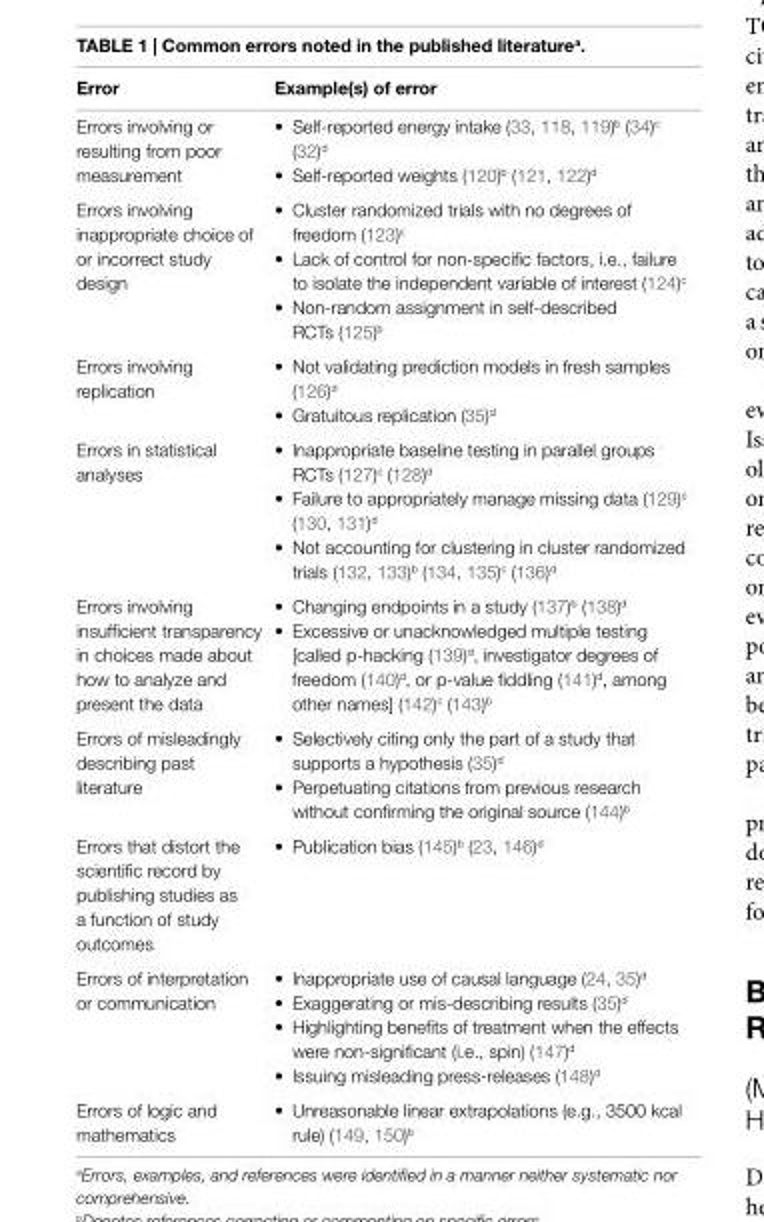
<table><thead><tr><td>error</td><td>example(s) of error</td></tr></thead><tbody><tr><td rowspan="2">Errors involving or resulting from poor measurement</td><td>• Self-reported energy intake (33, 118, 119)<sup>b</sup> (34)<sup>c</sup> (32)<sup>d</sup></td></tr><tr><td>• Self-reported weights (120)<sup>b</sup> (121, 122)<sup>d</sup></td></tr><tr><td rowspan="3">Errors involving inappropriate choice of or incorrect study design</td><td>• Cluster randomized trials with no degrees of freedom (123)<sup>c</sup></td></tr><tr><td>• Lack of control for non-specific factors, i.e., failure to isolate the independent variable of interest (124)<sup>c</sup></td></tr><tr><td>• Non-random assignment in self-described RCTs (125)<sup>b</sup></td></tr><tr><td rowspan="2">Errors involving replication</td><td>• Not validating prediction models in fresh samples (126)<sup>d</sup></td></tr><tr><td>• Gratuitous replication (35)<sup>d</sup></td></tr><tr><td rowspan="3">Errors in statistical analyses</td><td>• Inappropriate baseline testing in parallel groups RCTs (127)<sup>c</sup> (128)<sup>d</sup></td></tr><tr><td>• Failure to appropriately manage missing data (129)<sup>c</sup> (130, 131)<sup>d</sup></td></tr><tr><td>• Not accounting for clustering in cluster randomized trials (132, 133)<sup>b</sup> (134, 135)<sup>c</sup> (136)<sup>d</sup></td></tr><tr><td rowspan="2">Errors involving insufficient transparency in choices made about how to analyze and present the data</td><td>• Changing endpoints in a study (137)<sup>b</sup> (138)<sup>d</sup></td></tr><tr><td>• Excessive or unacknowledged multiple testing [called p-hacking (139)<sup>d</sup>, investigator degrees of freedom (140)<sup>d</sup>, or p-value fiddling (141)<sup>d</sup>, among other names] (142)<sup>c</sup> (143)<sup>b</sup></td></tr><tr><td rowspan="2">Errors of misleadingly describing past literature</td><td>• Selectively citing only the part of a study that supports a hypothesis (35)<sup>d</sup></td></tr><tr><td>• Perpetuating citations from previous research without confirming the original source (144)<sup>b</sup></td></tr><tr><td>Errors that distort the scientific record by publishing studies as a function of study outcomes</td><td>• Publication bias (145)<sup>b</sup> (23, 146)<sup>d</sup></td></tr><tr><td rowspan="4">Errors of interpretation or communication</td><td>• Inappropriate use of causal language (24, 35)<sup>d</sup></td></tr><tr><td>• Exaggerating or mis-describing results (35)<sup>d</sup></td></tr><tr><td>• Highlighting benefits of treatment when the effects were non-significant (i.e., spin) (147)<sup>d</sup></td></tr><tr><td>• Issuing misleading press-releases (148)<sup>d</sup></td></tr><tr><td>Errors of logic and mathematics</td><td>• Unreasonable linear extrapolations (e.g., 3500 kcal rule) (149, 150)<sup>b</sup></td></tr></tbody></table>